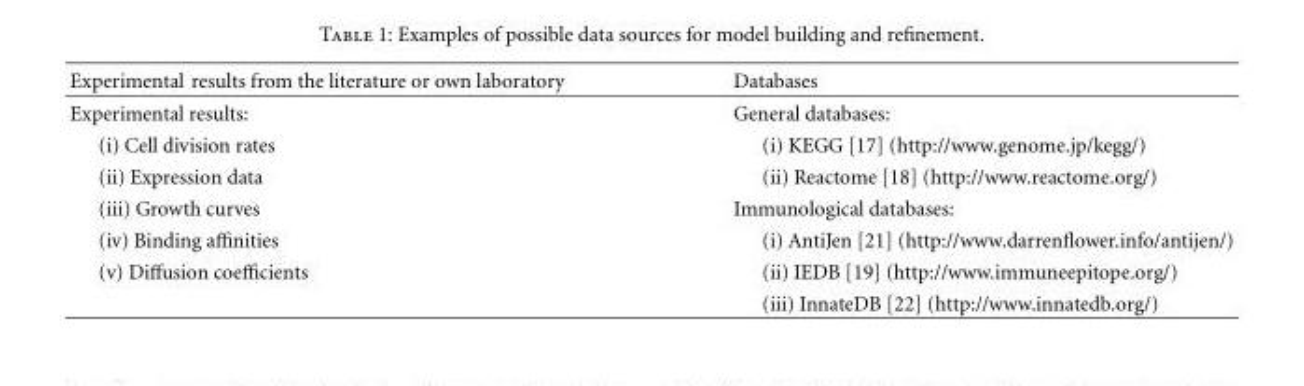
<table><thead><tr><td>Experimental results from the literature or own laboratory</td><td>Databases</td></tr></thead><tbody><tr><td>Experimental results:</td><td>General databases:</td></tr><tr><td>(i) Cell division rates</td><td>(i) KEGG [17] (http://www.genome.jp/kegg/)</td></tr><tr><td>(ii) Expression data</td><td>(ii) Reactome [18] (http://www.reactome.org/)</td></tr><tr><td>(iii) Growth curves</td><td>Immunological databases:</td></tr><tr><td>(iv) Binding affinities</td><td>(i) AntiJen [21] (http://www.darrenflower.info/antijen/)</td></tr><tr><td rowspan="2">(v) Diffusion coefficients</td><td>(ii) IEDB [19] (http://www.immuneepitope.org/)</td></tr><tr><td>(iii) InnateDB [22] (http://www.innatedb.org/)</td></tr></tbody></table>